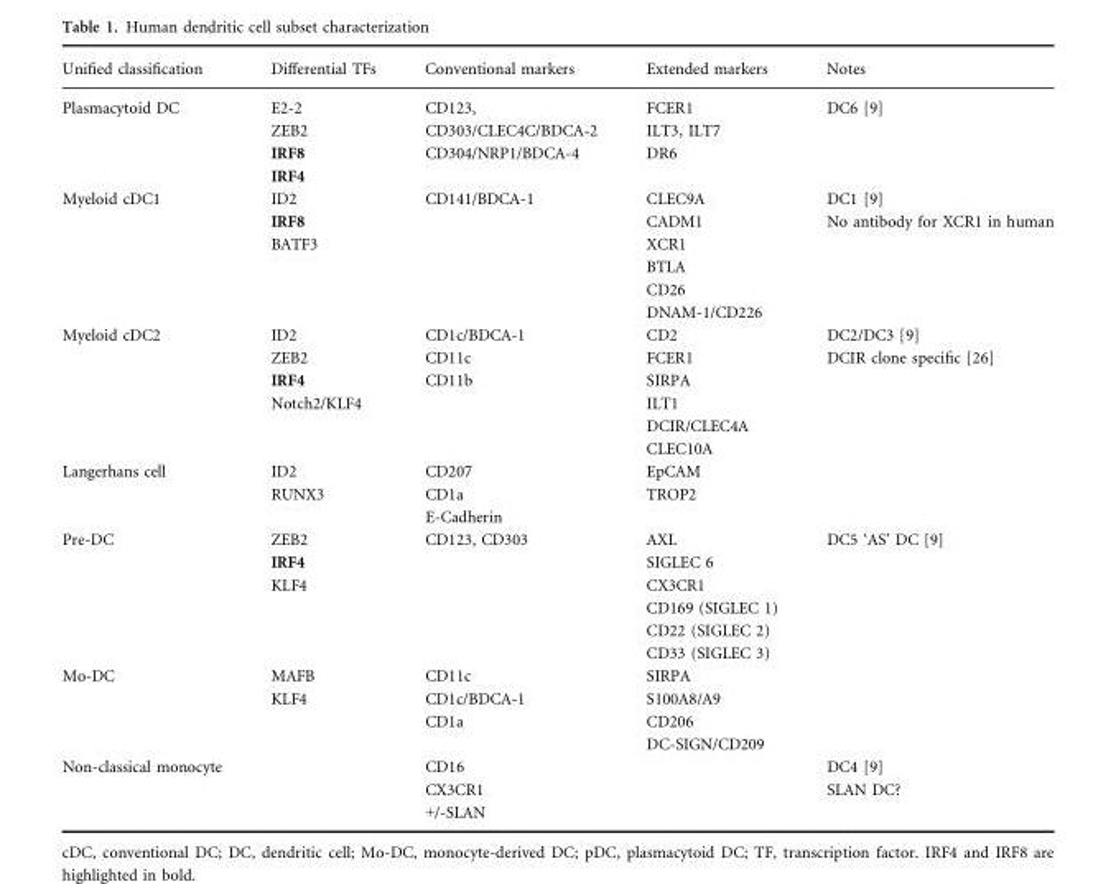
<table><thead><tr><td>Unified classification</td><td>Differential TFs</td><td>Conventional markers</td><td>Extended markers</td><td>Notes</td></tr></thead><tbody><tr><td rowspan="4">Plasmacytoid DC</td><td>E2-2</td><td>CD123,</td><td>FCER1</td><td rowspan="4">DC6 [9]</td></tr><tr><td>ZEB2</td><td>CD303/CLEC4C/BDCA-2</td><td>ILT3, ILT7</td></tr><tr><td>IRF8</td><td>CD304/NRP1/BDCA-4</td><td>DR6</td></tr><tr><td>IRF4</td><td></td><td></td></tr><tr><td rowspan="6">Myeloid cDC1</td><td>ID2</td><td rowspan="6">CD141/BDCA-1</td><td>CLEC9A</td><td>DC1 [9]</td></tr><tr><td>IRF8</td><td>CADM1</td><td rowspan="5">No antibody for XCR1 in human</td></tr><tr><td>BATF3</td><td>XCR1</td></tr><tr><td></td><td>BTLA</td></tr><tr><td></td><td>CD26</td></tr><tr><td></td><td>DNAM-1/CD226</td></tr><tr><td rowspan="6">Myeloid cDC2</td><td>ID2</td><td>CD1c/BDCA-1</td><td>CD2</td><td>DC2/DC3 [9]</td></tr><tr><td>ZEB2</td><td>CD11c</td><td>FCER1</td><td rowspan="5">DCIR clone specific [26]</td></tr><tr><td>IRF4</td><td>CD11b</td><td>SIRPA</td></tr><tr><td>Notch2/KLF4</td><td></td><td>ILT1</td></tr><tr><td></td><td></td><td>DCIR/CLEC4A</td></tr><tr><td></td><td></td><td>CLEC10A</td></tr><tr><td rowspan="3">Langerhans cell</td><td>ID2</td><td>CD207</td><td>EpCAM</td><td rowspan="3"></td></tr><tr><td>RUNX3</td><td>CD1a</td><td>TROP2</td></tr><tr><td></td><td>E-Cadherin</td><td></td></tr><tr><td rowspan="6">Pre-DC</td><td>ZEB2</td><td rowspan="6">CD123, CD303</td><td>AXL</td><td rowspan="6">DC5 ‘AS’ DC [9]</td></tr><tr><td>IRF4</td><td>SIGLEC 6</td></tr><tr><td>KLF4</td><td>CX3CR1</td></tr><tr><td></td><td>CD169 (SIGLEC 1)</td></tr><tr><td></td><td>CD22 (SIGLEC 2)</td></tr><tr><td></td><td>CD33 (SIGLEC 3)</td></tr><tr><td rowspan="4">Mo-DC</td><td>MAFB</td><td>CD11c</td><td>SIRPA</td><td rowspan="4"></td></tr><tr><td>KLF4</td><td>CD1c/BDCA-1</td><td>S100A8/A9</td></tr><tr><td></td><td>CD1a</td><td>CD206</td></tr><tr><td></td><td></td><td>DC-SIGN/CD209</td></tr><tr><td rowspan="3">Non-classical monocyte</td><td rowspan="3"></td><td>CD16</td><td rowspan="3"></td><td>DC4 [9]</td></tr><tr><td>CX3CR1</td><td>SLAN DC?</td></tr><tr><td>+/-SLAN</td><td></td></tr></tbody></table>